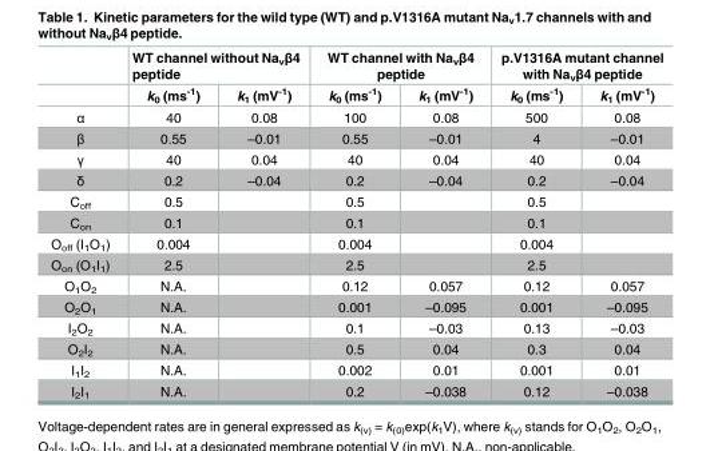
<table><thead><tr><td rowspan="2"></td><td colspan="2">WT channel without Na<sub>v</sub>β4 peptide</td><td colspan="2">WT channel with Na<sub>v</sub>β4 peptide</td><td colspan="2">p.V1316A mutant channel with Na<sub>v</sub>β4 peptide</td></tr><tr><td>k<sub>0</sub> (ms<sup>-1</sup>)</td><td>k<sub>1</sub> (mV<sup>-1</sup>)</td><td>k<sub>0</sub> (ms<sup>-1</sup>)</td><td>k<sub>1</sub> (mV<sup>-1</sup>)</td><td>k<sub>0</sub> (ms<sup>-1</sup>)</td><td>k<sub>1</sub> (mV<sup>-1</sup>)</td></tr></thead><tbody><tr><td>α</td><td>40</td><td>0.08</td><td>100</td><td>0.08</td><td>500</td><td>0.08</td></tr><tr><td>β</td><td>0.55</td><td>–0.01</td><td>0.55</td><td>–0.01</td><td>4</td><td>–0.01</td></tr><tr><td>γ</td><td>40</td><td>0.04</td><td>40</td><td>0.04</td><td>40</td><td>0.04</td></tr><tr><td>δ</td><td>0.2</td><td>–0.04</td><td>0.2</td><td>–0.04</td><td>0.2</td><td>–0.04</td></tr><tr><td>C<sub>off</sub></td><td>0.5</td><td></td><td>0.5</td><td></td><td>0.5</td><td></td></tr><tr><td>C<sub>on</sub></td><td>0.1</td><td></td><td>0.1</td><td></td><td>0.1</td><td></td></tr><tr><td>O<sub>off</sub> (I<sub>1</sub>O<sub>1</sub>)</td><td>0.004</td><td></td><td>0.004</td><td></td><td>0.004</td><td></td></tr><tr><td>O<sub>on</sub> (O<sub>1</sub>I<sub>1</sub>)</td><td>2.5</td><td></td><td>2.5</td><td></td><td>2.5</td><td></td></tr><tr><td>O<sub>1</sub>O<sub>2</sub></td><td>N.A.</td><td></td><td>0.12</td><td>0.057</td><td>0.12</td><td>0.057</td></tr><tr><td>O<sub>2</sub>O<sub>1</sub></td><td>N.A.</td><td></td><td>0.001</td><td>–0.095</td><td>0.001</td><td>–0.095</td></tr><tr><td>I<sub>2</sub>O<sub>2</sub></td><td>N.A.</td><td></td><td>0.1</td><td>–0.03</td><td>0.13</td><td>–0.03</td></tr><tr><td>O<sub>2</sub>I<sub>2</sub></td><td>N.A.</td><td></td><td>0.5</td><td>0.04</td><td>0.3</td><td>0.04</td></tr><tr><td>I<sub>1</sub>I<sub>2</sub></td><td>N.A.</td><td></td><td>0.002</td><td>0.01</td><td>0.001</td><td>0.01</td></tr><tr><td>I<sub>2</sub>I<sub>1</sub></td><td>N.A.</td><td></td><td>0.2</td><td>–0.038</td><td>0.12</td><td>–0.038</td></tr></tbody></table>